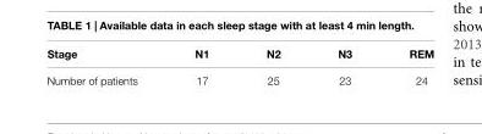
<table><thead><tr><td>Stage</td><td>N1</td><td>N2</td><td>N3</td><td>REM</td></tr></thead><tbody><tr><td>Number of patients</td><td>17</td><td>25</td><td>23</td><td>24</td></tr></tbody></table>